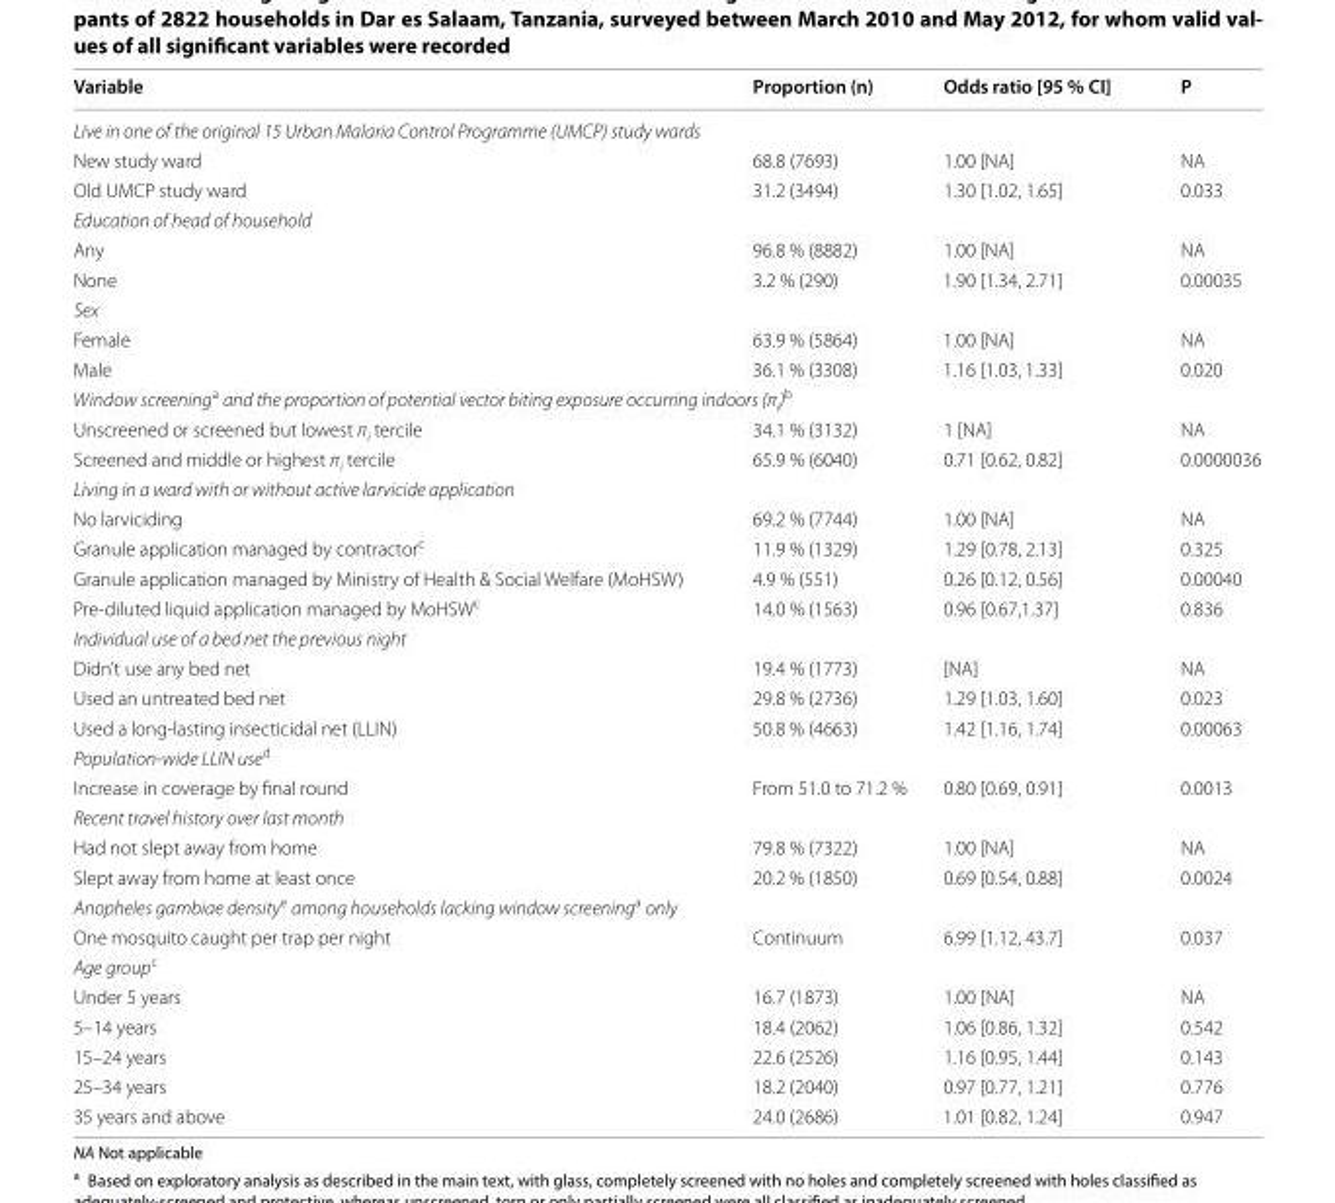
<table><thead><tr><td>Variable</td><td>Proportion (n)</td><td>Odds ratio [95 % CI]</td><td>P</td></tr></thead><tbody><tr><td colspan="4">Live in one of the original 15 Urban Malaria Control Programme (UMCP) study wards</td></tr><tr><td>New study ward</td><td>68.8 (7693)</td><td>1.00 [NA]</td><td>NA</td></tr><tr><td>Old UMCP study ward</td><td>31.2 (3494)</td><td>1.30 [1.02, 1.65]</td><td>0.033</td></tr><tr><td colspan="4">Education of head of household</td></tr><tr><td>Any</td><td>96.8 % (8882)</td><td>1.00 [NA]</td><td>NA</td></tr><tr><td>None</td><td>3.2 % (290)</td><td>1.90 [1.34, 2.71]</td><td>0.00035</td></tr><tr><td colspan="4">Sex</td></tr><tr><td>Female</td><td>63.9 % (5864)</td><td>1.00 [NA]</td><td>NA</td></tr><tr><td>Male</td><td>36.1 % (3308)</td><td>1.16 [1.03, 1.33]</td><td>0.020</td></tr><tr><td colspan="4">Window screening<sup>a</sup> and the proportion of potential vector biting exposure occurring indoors (π<sub>i</sub>)<sup>b</sup></td></tr><tr><td>Unscreened or screened but lowest π<sub>i</sub> tercile</td><td>34.1 % (3132)</td><td>1 [NA]</td><td>NA</td></tr><tr><td>Screened and middle or highest π<sub>i</sub> tercile</td><td>65.9 % (6040)</td><td>0.71 [0.62, 0.82]</td><td>0.0000036</td></tr><tr><td colspan="4">Living in a ward with or without active larvicide application</td></tr><tr><td>No larviciding</td><td>69.2 % (7744)</td><td>1.00 [NA]</td><td>NA</td></tr><tr><td>Granule application managed by contractor<sup>c</sup></td><td>11.9 % (1329)</td><td>1.29 [0.78, 2.13]</td><td>0.325</td></tr><tr><td>Granule application managed by Ministry of Health &amp; Social Welfare (MoHSW)</td><td>4.9 % (551)</td><td>0.26 [0.12, 0.56]</td><td>0.00040</td></tr><tr><td>Pre-diluted liquid application managed by MoHSW<sup>c</sup></td><td>14.0 % (1563)</td><td>0.96 [0.67,1.37]</td><td>0.836</td></tr><tr><td colspan="4">Individual use of a bed net the previous night</td></tr><tr><td>Didn’t use any bed net</td><td>19.4 % (1773)</td><td>[NA]</td><td>NA</td></tr><tr><td>Used an untreated bed net</td><td>29.8 % (2736)</td><td>1.29 [1.03, 1.60]</td><td>0.023</td></tr><tr><td>Used a long-lasting insecticidal net (LLIN)</td><td>50.8 % (4663)</td><td>1.42 [1.16, 1.74]</td><td>0.00063</td></tr><tr><td colspan="4">Population-wide LLIN use<sup>d</sup></td></tr><tr><td>Increase in coverage by final round</td><td>From 51.0 to 71.2 %</td><td>0.80 [0.69, 0.91]</td><td>0.0013</td></tr><tr><td colspan="4">Recent travel history over last month</td></tr><tr><td>Had not slept away from home</td><td>79.8 % (7322)</td><td>1.00 [NA]</td><td>NA</td></tr><tr><td>Slept away from home at least once</td><td>20.2 % (1850)</td><td>0.69 [0.54, 0.88]</td><td>0.0024</td></tr><tr><td colspan="4">Anopheles gambiae density<sup>e</sup> among households lacking window screening<sup>a</sup> only</td></tr><tr><td>One mosquito caught per trap per night</td><td>Continuum</td><td>6.99 [1.12, 43.7]</td><td>0.037</td></tr><tr><td colspan="4">Age group<sup>c</sup></td></tr><tr><td>Under 5 years</td><td>16.7 (1873)</td><td>1.00 [NA]</td><td>NA</td></tr><tr><td>5–14 years</td><td>18.4 (2062)</td><td>1.06 [0.86, 1.32]</td><td>0.542</td></tr><tr><td>15–24 years</td><td>22.6 (2526)</td><td>1.16 [0.95, 1.44]</td><td>0.143</td></tr><tr><td>25–34 years</td><td>18.2 (2040)</td><td>0.97 [0.77, 1.21]</td><td>0.776</td></tr><tr><td>35 years and above</td><td>24.0 (2686)</td><td>1.01 [0.82, 1.24]</td><td>0.947</td></tr></tbody></table>